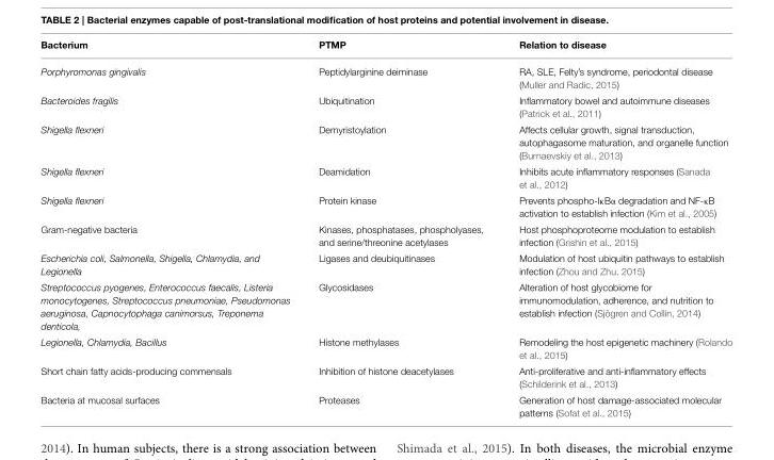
<table><thead><tr><td>Bacterium</td><td>PTMP</td><td>Relation to disease</td></tr></thead><tbody><tr><td>Porphyromonas gingivalis</td><td>Peptidylarginine deiminase</td><td>RA, SLE, Felty’s syndrome, periodontal disease (Muller and Radic, 2015)</td></tr><tr><td>Bacteroides fragilis</td><td>Ubiquitination</td><td>Inflammatory bowel and autoimmune diseases (Patrick et al., 2011)</td></tr><tr><td>Shigella flexneri</td><td>Demyristoylation</td><td>Affects cellular growth, signal transduction, autophagasome maturation, and organelle function (Burnaevskiy et al., 2013)</td></tr><tr><td>Shigella flexneri</td><td>Deamidation</td><td>Inhibits acute inflammatory responses (Sanada et al., 2012)</td></tr><tr><td>Shigella flexneri</td><td>Protein kinase</td><td>Prevents phospho-IκBα degradation and NF-κB activation to establish infection (Kim et al., 2005)</td></tr><tr><td>Gram-negative bacteria</td><td>Kinases, phosphatases, phospholyases, and serine/threonine acetylases</td><td>Host phosphoproteome modulation to establish infection (Grishin et al., 2015)</td></tr><tr><td>Escherichia coli, Salmonella, Shigella, Chlamydia, and Legionella</td><td>Ligases and deubiquitinases</td><td>Modulation of host ubiquitin pathways to establish infection (Zhou and Zhu, 2015)</td></tr><tr><td>Streptococcus pyogenes, Enterococcus faecalis, Listeria monocytogenes, Streptococcus pneumoniae, Pseudomonas aeruginosa, Capnocytophaga canimorsus, Treponema denticola,</td><td>Glycosidases</td><td>Alteration of host glycobiome for immunomodulation, adherence, and nutrition to establish infection (Sjögren and Collin, 2014)</td></tr><tr><td>Legionella, Chlamydia, Bacillus</td><td>Histone methylases</td><td>Remodeling the host epigenetic machinery (Rolando et al., 2015)</td></tr><tr><td>Short chain fatty acids-producing commensals</td><td>Inhibition of histone deacetylases</td><td>Anti-proliferative and anti-inflammatory effects (Schilderink et al., 2013)</td></tr><tr><td>Bacteria at mucosal surfaces</td><td>Proteases</td><td>Generation of host damage-associated molecular patterns (Sofat et al., 2015)</td></tr></tbody></table>